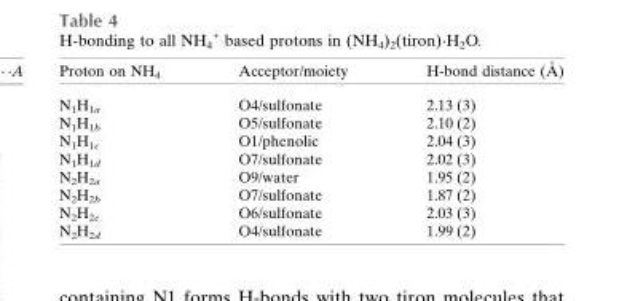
<table><thead><tr><td>Proton on NH<sub>4</sub></td><td>Acceptor/moiety</td><td>H-bond distance (A˚</td></tr></thead><tbody><tr><td>N<sub>1</sub>H<sub>1a</sub></td><td>O4/sulfonate</td><td>2.13 (3)</td></tr><tr><td>N<sub>1</sub>H<sub>1b</sub></td><td>O5/sulfonate</td><td>2.10 (2)</td></tr><tr><td>N<sub>1</sub>H<sub>1c</sub></td><td>O1/phenolic</td><td>2.04 (3)</td></tr><tr><td>N<sub>1</sub>H<sub>1d</sub></td><td>O7/sulfonate</td><td>2.02 (3)</td></tr><tr><td>N<sub>2</sub>H<sub>2a</sub></td><td>O9/water</td><td>1.95 (2)</td></tr><tr><td>N<sub>2</sub>H<sub>2b</sub></td><td>O7/sulfonate</td><td>1.87 (2)</td></tr><tr><td>N<sub>2</sub>H<sub>2c</sub></td><td>O6/sulfonate</td><td>2.03 (3)</td></tr><tr><td>N<sub>2</sub>H<sub>2d</sub></td><td>O4/sulfonate</td><td>1.99 (2)</td></tr></tbody></table>